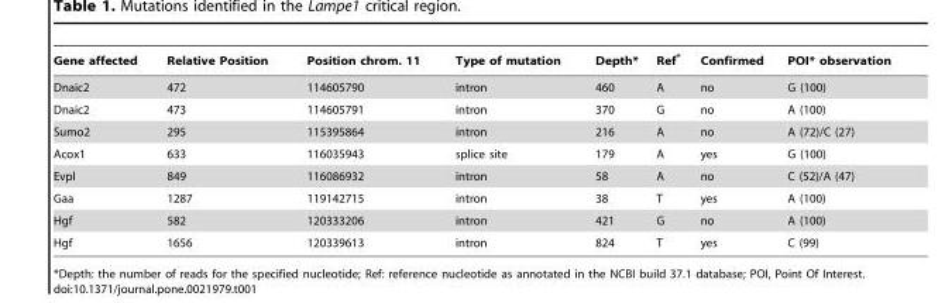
<table><thead><tr><td>Gene affected</td><td>Relative Position</td><td>Position chrom. 11</td><td>Type of mutation</td><td>Depth*</td><td>Ref*</td><td>Confirmed</td><td>POI* observation</td></tr></thead><tbody><tr><td>Dnaic2</td><td>472</td><td>114605790</td><td>intron</td><td>460</td><td>A</td><td>no</td><td>G (100)</td></tr><tr><td>Dnaic2</td><td>473</td><td>114605791</td><td>intron</td><td>370</td><td>G</td><td>no</td><td>A (100)</td></tr><tr><td>Sumo2</td><td>295</td><td>115395864</td><td>intron</td><td>216</td><td>A</td><td>no</td><td>A (72)/C (27)</td></tr><tr><td>Acox1</td><td>633</td><td>116035943</td><td>splice site</td><td>179</td><td>A</td><td>yes</td><td>G (100)</td></tr><tr><td>Evpl</td><td>849</td><td>116086932</td><td>intron</td><td>58</td><td>A</td><td>no</td><td>C (52)/A (47)</td></tr><tr><td>Gaa</td><td>1287</td><td>119142715</td><td>intron</td><td>38</td><td>T</td><td>yes</td><td>A (100)</td></tr><tr><td>Hgf</td><td>582</td><td>120333206</td><td>intron</td><td>421</td><td>G</td><td>no</td><td>A (100)</td></tr><tr><td>Hgf</td><td>1656</td><td>120339613</td><td>intron</td><td>824</td><td>T</td><td>yes</td><td>C (99)</td></tr></tbody></table>